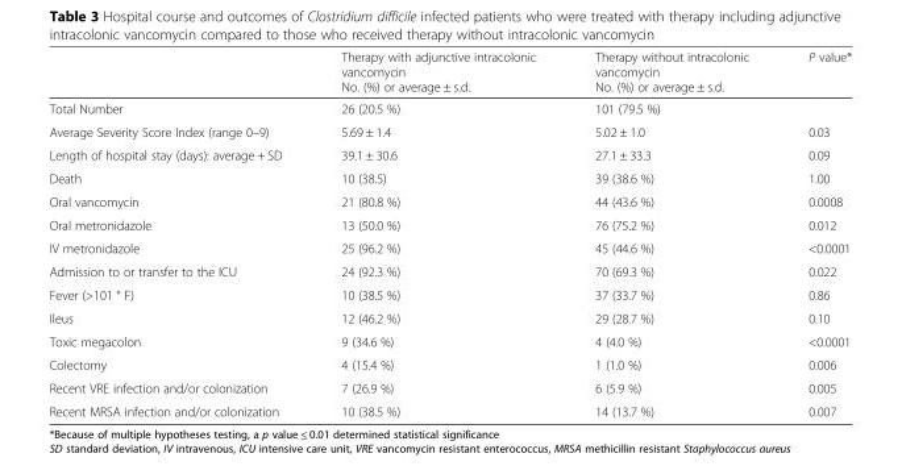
<table><thead><tr><td></td><td>Therapy with adjunctive intracolonic vancomycin No. (%) or average ± s.d.</td><td>Therapy without intracolonic vancomycin No. (%) or average ± s.d.</td><td>P value*</td></tr></thead><tbody><tr><td>Total Number</td><td>26 (20.5 %)</td><td>101 (79.5 %)</td><td></td></tr><tr><td>Average Severity Score Index (range 0–9)</td><td>5.69 ± 1.4</td><td>5.02 ± 1.0</td><td>0.03</td></tr><tr><td>Length of hospital stay (days): average + SD</td><td>39.1 ± 30.6</td><td>27.1 ± 33.3</td><td>0.09</td></tr><tr><td>Death</td><td>10 (38.5)</td><td>39 (38.6 %)</td><td>1.00</td></tr><tr><td>Oral vancomycin</td><td>21 (80.8 %)</td><td>44 (43.6 %)</td><td>0.0008</td></tr><tr><td>Oral metronidazole</td><td>13 (50.0 %)</td><td>76 (75.2 %)</td><td>0.012</td></tr><tr><td>IV metronidazole</td><td>25 (96.2 %)</td><td>45 (44.6 %)</td><td>&lt;0.0001</td></tr><tr><td>Admission to or transfer to the ICU</td><td>24 (92.3 %)</td><td>70 (69.3 %)</td><td>0.022</td></tr><tr><td>Fever (&gt;101 ° F)</td><td>10 (38.5 %)</td><td>37 (33.7 %)</td><td>0.86</td></tr><tr><td>Ileus</td><td>12 (46.2 %)</td><td>29 (28.7 %)</td><td>0.10</td></tr><tr><td>Toxic megacolon</td><td>9 (34.6 %)</td><td>4 (4.0 %)</td><td>&lt;0.0001</td></tr><tr><td>Colectomy</td><td>4 (15.4 %)</td><td>1 (1.0 %)</td><td>0.006</td></tr><tr><td>Recent VRE infection and/or colonization</td><td>7 (26.9 %)</td><td>6 (5.9 %)</td><td>0.005</td></tr><tr><td>Recent MRSA infection and/or colonization</td><td>10 (38.5 %)</td><td>14 (13.7 %)</td><td>0.007</td></tr></tbody></table>